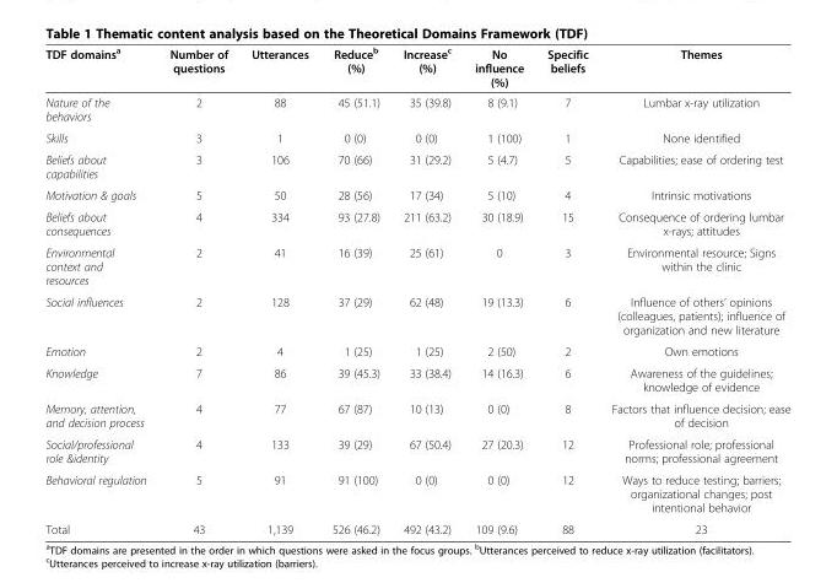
<table><thead><tr><td>TDF domains<sup>a</sup></td><td>Number of questions</td><td>Utterances</td><td>Reduce<sup>b</sup> (%)</td><td>Increase<sup>c</sup> (%)</td><td>No influence (%)</td><td>Specific beliefs</td><td>Themes</td></tr></thead><tbody><tr><td>Nature of the behaviors</td><td>2</td><td>88</td><td>45 (51.1)</td><td>35 (39.8)</td><td>8 (9.1)</td><td>7</td><td>Lumbar x-ray utilization</td></tr><tr><td>Skills</td><td>3</td><td>1</td><td>0 (0)</td><td>0 (0)</td><td>1 (100)</td><td>1</td><td>None identified</td></tr><tr><td>Beliefs about capabilities</td><td>3</td><td>106</td><td>70 (66)</td><td>31 (29.2)</td><td>5 (4.7)</td><td>5</td><td>Capabilities; ease of ordering test</td></tr><tr><td>Motivation &amp; goals</td><td>5</td><td>50</td><td>28 (56)</td><td>17 (34)</td><td>5 (10)</td><td>4</td><td>Intrinsic motivations</td></tr><tr><td>Beliefs about consequences</td><td>4</td><td>334</td><td>93 (27.8)</td><td>211 (63.2)</td><td>30 (18.9)</td><td>15</td><td>Consequence of ordering lumbar x-rays; attitudes</td></tr><tr><td>Environmental context and resources</td><td>2</td><td>41</td><td>16 (39)</td><td>25 (61)</td><td>0</td><td>3</td><td>Environmental resource; Signs within the clinic</td></tr><tr><td>Social influences</td><td>2</td><td>128</td><td>37 (29)</td><td>62 (48)</td><td>19 (13.3)</td><td>6</td><td>Influence of others’ opinions (colleagues, patients); influence of organization and new literature</td></tr><tr><td>Emotion</td><td>2</td><td>4</td><td>1 (25)</td><td>1 (25)</td><td>2 (50)</td><td>2</td><td>Own emotions</td></tr><tr><td>Knowledge</td><td>7</td><td>86</td><td>39 (45.3)</td><td>33 (38.4)</td><td>14 (16.3)</td><td>6</td><td>Awareness of the guidelines; knowledge of evidence</td></tr><tr><td>Memory, attention, and decision process</td><td>4</td><td>77</td><td>67 (87)</td><td>10 (13)</td><td>0 (0)</td><td>8</td><td>Factors that influence decision; ease of decision</td></tr><tr><td>Social/professional role &amp;identity</td><td>4</td><td>133</td><td>39 (29)</td><td>67 (50.4)</td><td>27 (20.3)</td><td>12</td><td>Professional role; professional norms; professional agreement</td></tr><tr><td>Behavioral regulation</td><td>5</td><td>91</td><td>91 (100)</td><td>0 (0)</td><td>0 (0)</td><td>12</td><td>Ways to reduce testing; barriers; organizational changes; post intentional behavior</td></tr><tr><td>Total</td><td>43</td><td>1,139</td><td>526 (46.2)</td><td>492 (43.2)</td><td>109 (9.6)</td><td>88</td><td>23</td></tr></tbody></table>